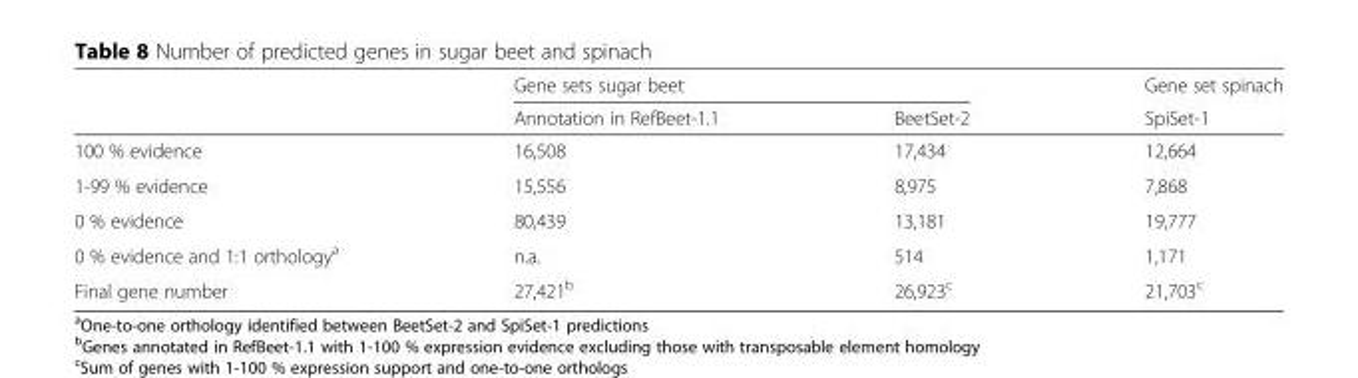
<table><thead><tr><td rowspan="2"></td><td colspan="2">Gene sets sugar beet</td><td rowspan="2">Gene set spinach SpiSet-1</td></tr><tr><td>Annotation in RefBeet-1.1</td><td>BeetSet-2</td></tr></thead><tbody><tr><td>100 % evidence</td><td>16,508</td><td>17,434</td><td>12,664</td></tr><tr><td>1-99 % evidence</td><td>15,556</td><td>8,975</td><td>7,868</td></tr><tr><td>0 % evidence</td><td>80,439</td><td>13,181</td><td>19,777</td></tr><tr><td>0 % evidence and 1:1 orthology<sup>a</sup></td><td>n.a.</td><td>514</td><td>1,171</td></tr><tr><td>Final gene number</td><td>27,421<sup>b</sup></td><td>26,923<sup>c</sup></td><td>21,703<sup>c</sup></td></tr></tbody></table>